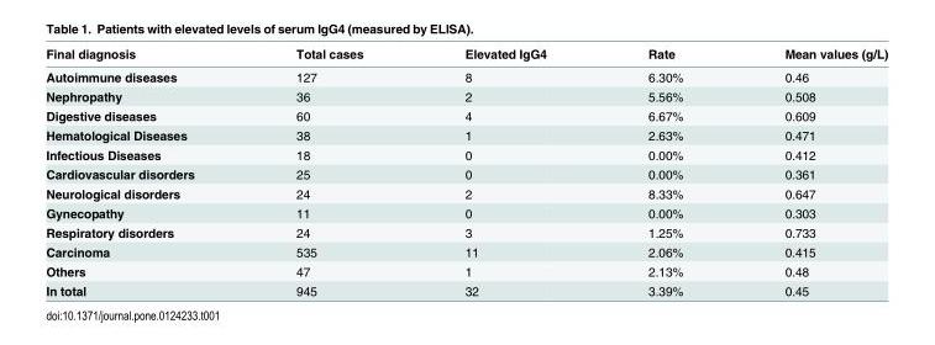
<table><thead><tr><td>Final diagnosis</td><td>Total cases</td><td>Elevated IgG4</td><td>Rate</td><td>Mean values (g/L)</td></tr></thead><tbody><tr><td>Autoimmune diseases</td><td>127</td><td>8</td><td>6.30%</td><td>0.46</td></tr><tr><td>Nephropathy</td><td>36</td><td>2</td><td>5.56%</td><td>0.508</td></tr><tr><td>Digestive diseases</td><td>60</td><td>4</td><td>6.67%</td><td>0.609</td></tr><tr><td>Hematological Diseases</td><td>38</td><td>1</td><td>2.63%</td><td>0.471</td></tr><tr><td>Infectious Diseases</td><td>18</td><td>0</td><td>0.00%</td><td>0.412</td></tr><tr><td>Cardiovascular disorders</td><td>25</td><td>0</td><td>0.00%</td><td>0.361</td></tr><tr><td>Neurological disorders</td><td>24</td><td>2</td><td>8.33%</td><td>0.647</td></tr><tr><td>Gynecopathy</td><td>11</td><td>0</td><td>0.00%</td><td>0.303</td></tr><tr><td>Respiratory disorders</td><td>24</td><td>3</td><td>1.25%</td><td>0.733</td></tr><tr><td>Carcinoma</td><td>535</td><td>11</td><td>2.06%</td><td>0.415</td></tr><tr><td>Others</td><td>47</td><td>1</td><td>2.13%</td><td>0.48</td></tr><tr><td>In total</td><td>945</td><td>32</td><td>3.39%</td><td>0.45</td></tr></tbody></table>